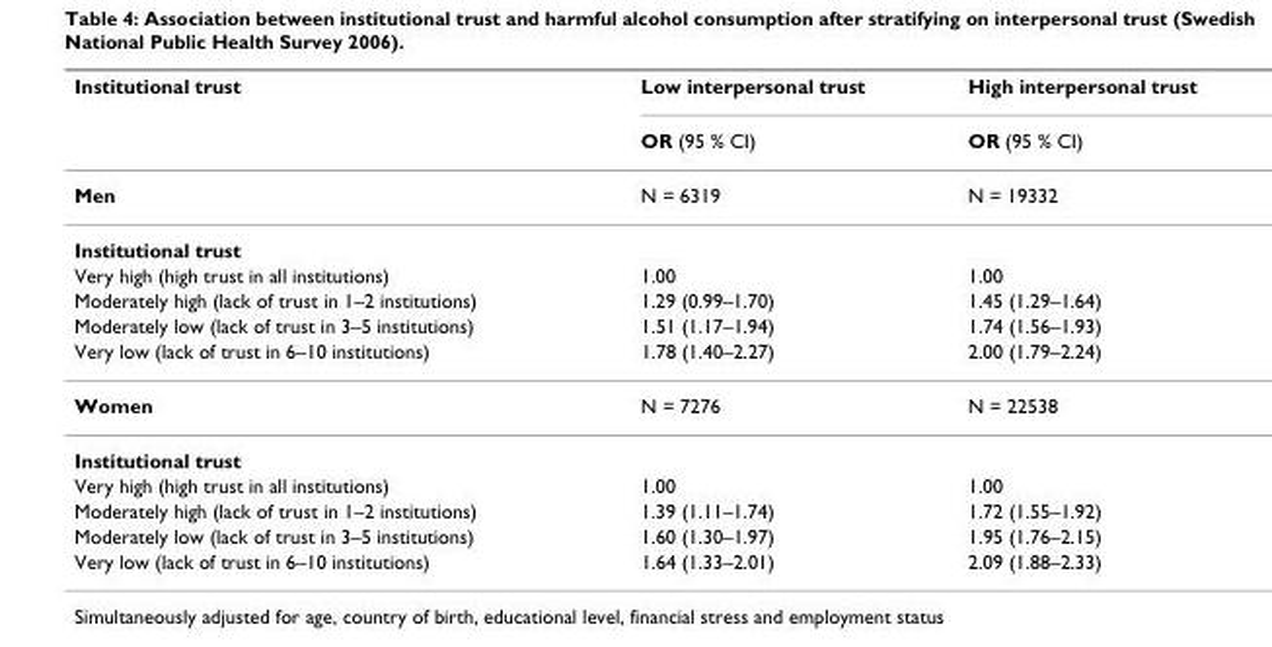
<table><thead><tr><td rowspan="2">Institutional trust</td><td rowspan="2">Low interpersonal trust OR (95 % CI)</td><td rowspan="2">High interpersonal trust OR (95 % CI)</td></tr><tr></tr></thead><tbody><tr><td>Men</td><td>N = 6319</td><td>N = 19332</td></tr><tr><td colspan="3">Institutional trust</td></tr><tr><td>Very high (high trust in all institutions)</td><td>1.00</td><td>1.00</td></tr><tr><td>Moderately high (lack of trust in 1–2 institutions)</td><td>1.29 (0.99–1.70)</td><td>1.45 (1.29–1.64)</td></tr><tr><td>Moderately low (lack of trust in 3–5 institutions)</td><td>1.51 (1.17–1.94)</td><td>1.74 (1.56–1.93)</td></tr><tr><td>Very low (lack of trust in 6–10 institutions)</td><td>1.78 (1.40–2.27)</td><td>2.00 (1.79–2.24)</td></tr><tr><td>Women</td><td>N = 7276</td><td>N = 22538</td></tr><tr><td colspan="3">Institutional trust</td></tr><tr><td>Very high (high trust in all institutions)</td><td>1.00</td><td>1.00</td></tr><tr><td>Moderately high (lack of trust in 1–2 institutions)</td><td>1.39 (1.11–1.74)</td><td>1.72 (1.55–1.92)</td></tr><tr><td>Moderately low (lack of trust in 3–5 institutions)</td><td>1.60 (1.30–1.97)</td><td>1.95 (1.76–2.15)</td></tr><tr><td>Very low (lack of trust in 6–10 institutions)</td><td>1.64 (1.33–2.01)</td><td>2.09 (1.88–2.33)</td></tr></tbody></table>